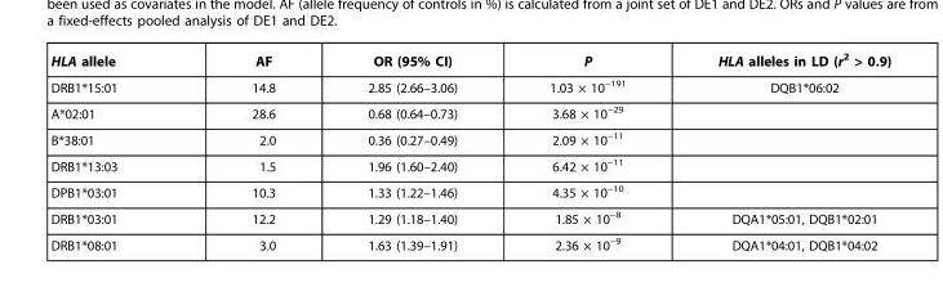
<table><thead><tr><td>HLA allele</td><td>AF</td><td>OR (95% CI)</td><td>P</td><td>HLA alleles in LD (r<sup>2</sup> &gt; 0.9)</td></tr></thead><tbody><tr><td>DRB1*15:01</td><td>14.8</td><td>2.85 (2.66–3.06)</td><td>1.03 × 10<sup>−191</sup></td><td>DQB1*06:02</td></tr><tr><td>A*02:01</td><td>28.6</td><td>0.68 (0.64–0.73)</td><td>3.68 × 10<sup>−29</sup></td><td></td></tr><tr><td>B*38:01</td><td>2.0</td><td>0.36 (0.27–0.49)</td><td>2.09 × 10<sup>−11</sup></td><td></td></tr><tr><td>DRB1*13:03</td><td>1.5</td><td>1.96 (1.60–2.40)</td><td>6.42 × 10<sup>−11</sup></td><td></td></tr><tr><td>DPB1*03:01</td><td>10.3</td><td>1.33 (1.22–1.46)</td><td>4.35 × 10<sup>−10</sup></td><td></td></tr><tr><td>DRB1*03:01</td><td>12.2</td><td>1.29 (1.18–1.40)</td><td>1.85 × 10<sup>−8</sup></td><td>DQA1*05:01, DQB1*02:01</td></tr><tr><td>DRB1*08:01</td><td>3.0</td><td>1.63 (1.39–1.91)</td><td>2.36 × 10<sup>−9</sup></td><td>DQA1*04:01, DQB1*04:02</td></tr></tbody></table>